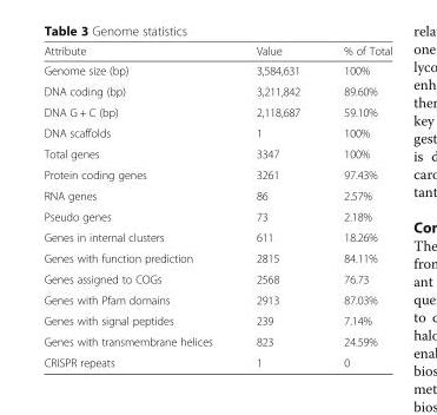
<table><thead><tr><td>Attribute</td><td>Value</td><td>% of Total</td></tr></thead><tbody><tr><td>Genome size (bp)</td><td>3,584,631</td><td>100%</td></tr><tr><td>DNA coding (bp)</td><td>3,211,842</td><td>89.60%</td></tr><tr><td>DNA G + C (bp)</td><td>2,118,687</td><td>59.10%</td></tr><tr><td>DNA scaffolds</td><td>1</td><td>100%</td></tr><tr><td>Total genes</td><td>3347</td><td>100%</td></tr><tr><td>Protein coding genes</td><td>3261</td><td>97.43%</td></tr><tr><td>RNA genes</td><td>86</td><td>2.57%</td></tr><tr><td>Pseudo genes</td><td>73</td><td>2.18%</td></tr><tr><td>Genes in internal clusters</td><td>611</td><td>18.26%</td></tr><tr><td>Genes with function prediction</td><td>2815</td><td>84.11%</td></tr><tr><td>Genes assigned to COGs</td><td>2568</td><td>76.73</td></tr><tr><td>Genes with Pfam domains</td><td>2913</td><td>87.03%</td></tr><tr><td>Genes with signal peptides</td><td>239</td><td>7.14%</td></tr><tr><td>Genes with transmembrane helices</td><td>823</td><td>24.59%</td></tr><tr><td>CRISPR repeats</td><td>1</td><td>0</td></tr></tbody></table>